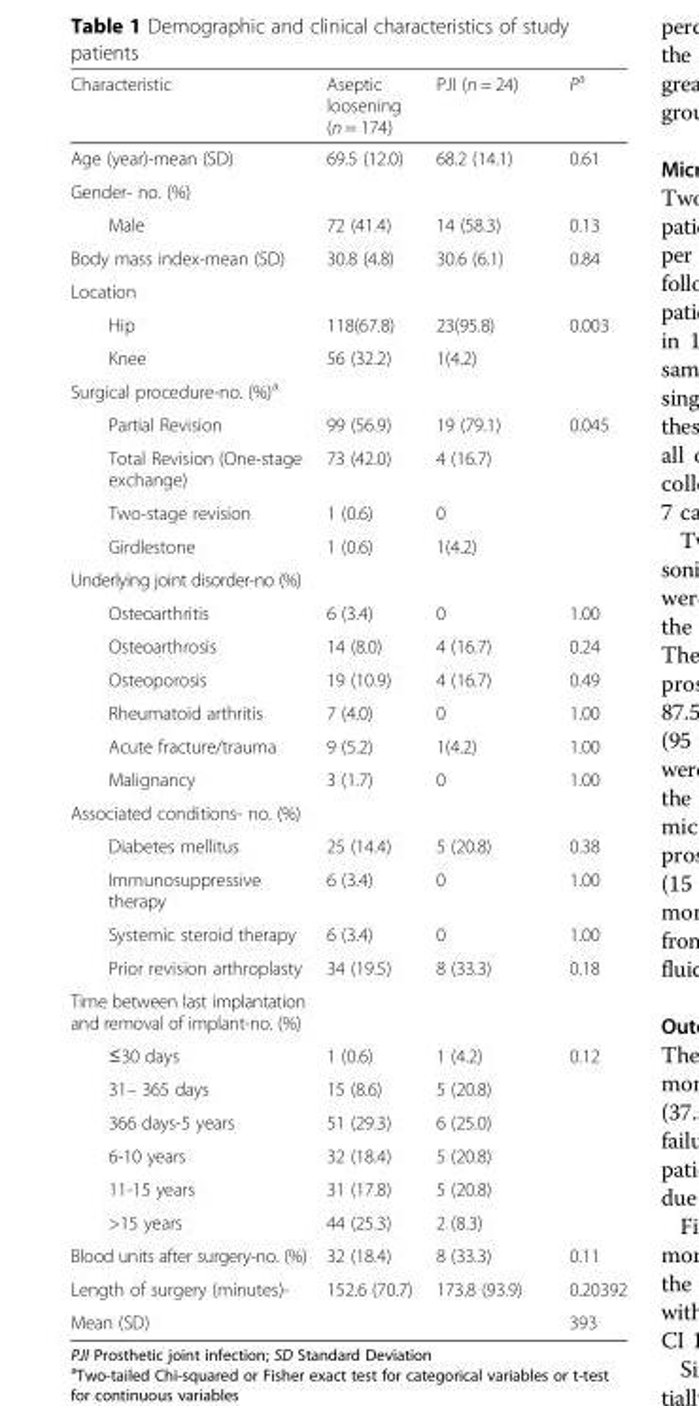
<table><thead><tr><td>Characteristic</td><td>Aseptic loosening (n = 174)</td><td>PJI (n = 24)</td><td>P<sup>a</sup></td></tr></thead><tbody><tr><td>Age (year)-mean (SD)</td><td>69.5 (12.0)</td><td>68.2 (14.1)</td><td>0.61</td></tr><tr><td colspan="4">Gender- no. (%)</td></tr><tr><td>Male</td><td>72 (41.4)</td><td>14 (58.3)</td><td>0.13</td></tr><tr><td>Body mass index-mean (SD)</td><td>30.8 (4.8)</td><td>30.6 (6.1)</td><td>0.84</td></tr><tr><td colspan="4">Location</td></tr><tr><td>Hip</td><td>118(67.8)</td><td>23(95.8)</td><td>0.003</td></tr><tr><td>Knee</td><td>56 (32.2)</td><td>1(4.2)</td><td></td></tr><tr><td colspan="4">Surgical procedure-no. (%)<sup>a</sup></td></tr><tr><td>Partial Revision</td><td>99 (56.9)</td><td>19 (79.1)</td><td>0.045</td></tr><tr><td>Total Revision (One-stage exchange)</td><td>73 (42.0)</td><td>4 (16.7)</td><td></td></tr><tr><td>Two-stage revision</td><td>1 (0.6)</td><td>0</td><td></td></tr><tr><td>Girdlestone</td><td>1 (0.6)</td><td>1(4.2)</td><td></td></tr><tr><td colspan="4">Underlying joint disorder-no (%)</td></tr><tr><td>Osteoarthritis</td><td>6 (3.4)</td><td>0</td><td>1.00</td></tr><tr><td>Osteoarthrosis</td><td>14 (8.0)</td><td>4 (16.7)</td><td>0.24</td></tr><tr><td>Osteoporosis</td><td>19 (10.9)</td><td>4 (16.7)</td><td>0.49</td></tr><tr><td>Rheumatoid arthritis</td><td>7 (4.0)</td><td>0</td><td>1.00</td></tr><tr><td>Acute fracture/trauma</td><td>9 (5.2)</td><td>1(4.2)</td><td>1.00</td></tr><tr><td>Malignancy</td><td>3 (1.7)</td><td>0</td><td>1.00</td></tr><tr><td colspan="4">Associated conditions- no. (%)</td></tr><tr><td>Diabetes mellitus</td><td>25 (14.4)</td><td>5 (20.8)</td><td>0.38</td></tr><tr><td>Immunosuppressive therapy</td><td>6 (3.4)</td><td>0</td><td>1.00</td></tr><tr><td>Systemic steroid therapy</td><td>6 (3.4)</td><td>0</td><td>1.00</td></tr><tr><td>Prior revision arthroplasty</td><td>34 (19.5)</td><td>8 (33.3)</td><td>0.18</td></tr><tr><td colspan="4">Time between last implantation and removal of implant-no. (%)</td></tr><tr><td>≤30 days</td><td>1 (0.6)</td><td>1 (4.2)</td><td>0.12</td></tr><tr><td>31– 365 days</td><td>15 (8.6)</td><td>5 (20.8)</td><td></td></tr><tr><td>366 days-5 years</td><td>51 (29.3)</td><td>6 (25.0)</td><td></td></tr><tr><td>6-10 years</td><td>32 (18.4)</td><td>5 (20.8)</td><td></td></tr><tr><td>11-15 years</td><td>31 (17.8)</td><td>5 (20.8)</td><td></td></tr><tr><td>&gt;15 years</td><td>44 (25.3)</td><td>2 (8.3)</td><td></td></tr><tr><td>Blood units after surgery-no. (%)</td><td>32 (18.4)</td><td>8 (33.3)</td><td>0.11</td></tr><tr><td>Length of surgery (minutes)-</td><td>152.6 (70.7)</td><td>173.8 (93.9)</td><td>0.20392</td></tr><tr><td>Mean (SD)</td><td></td><td></td><td>393</td></tr></tbody></table>